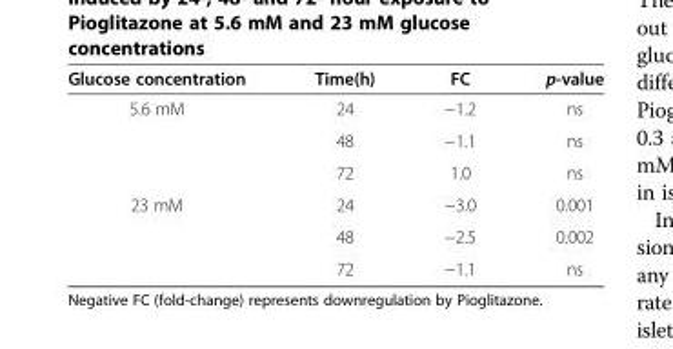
<table><thead><tr><td>Glucose concentration</td><td>Time(h)</td><td>FC</td><td>p-value</td></tr></thead><tbody><tr><td rowspan="3">5.6 mM</td><td>24</td><td>−1.2</td><td>ns</td></tr><tr><td>48</td><td>−1.1</td><td>ns</td></tr><tr><td>72</td><td>1.0</td><td>ns</td></tr><tr><td rowspan="3">23 mM</td><td>24</td><td>−3.0</td><td>0.001</td></tr><tr><td>48</td><td>−2.5</td><td>0.002</td></tr><tr><td>72</td><td>−1.1</td><td>ns</td></tr></tbody></table>